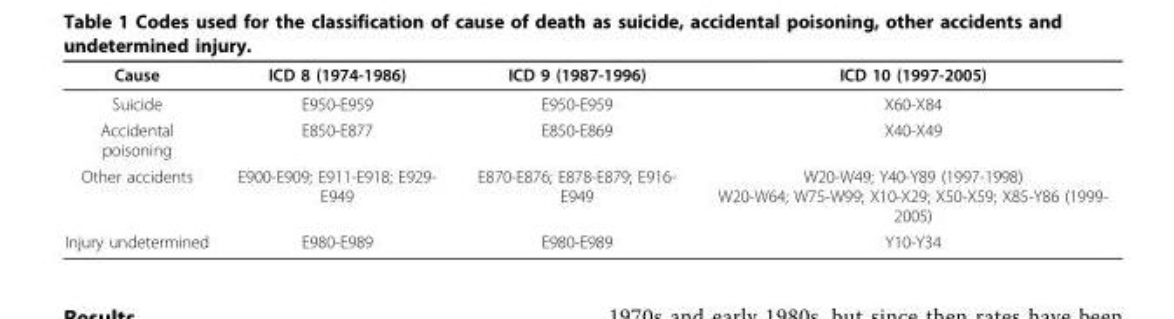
<table><thead><tr><td>Cause</td><td>ICD 8 (1974-1986)</td><td>ICD 9 (1987-1996)</td><td>ICD 10 (1997-2005)</td></tr></thead><tbody><tr><td>Suicide</td><td>E950-E959</td><td>E950-E959</td><td>X60-X84</td></tr><tr><td>Accidental poisoning</td><td>E850-E877</td><td>E850-E869</td><td>X40-X49</td></tr><tr><td>Other accidents</td><td>E900-E909; E911-E918; E929- E949</td><td>E870-E876; E878-E879; E916- E949</td><td>W20-W49; Y40-Y89 (1997-1998) W20-W64; W75-W99; X10-X29; X50-X59; X85-Y86 (1999- 2005)</td></tr><tr><td>Injury undetermined</td><td>E980-E989</td><td>E980-E989</td><td>Y10-Y34</td></tr></tbody></table>